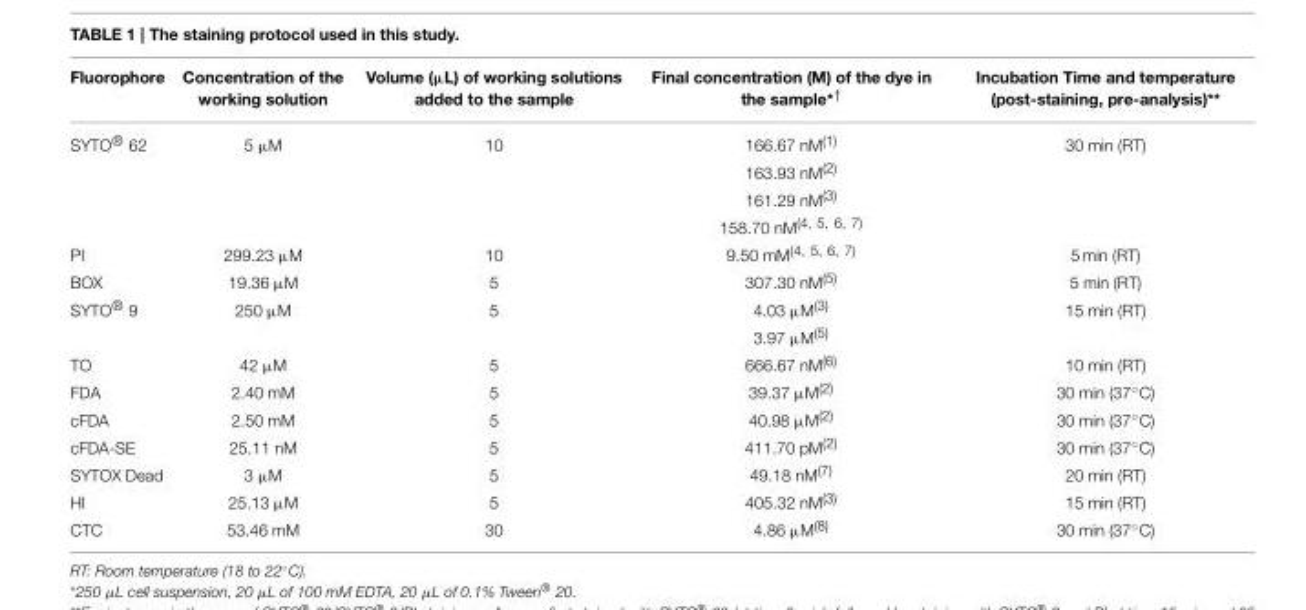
<table><thead><tr><td>Fluorophore</td><td>Concentration of the working solution</td><td>Volume (µL) of working solutions added to the sample</td><td>Final concentration (M) of the dye in the sample<sup>*†</sup></td><td>Incubation Time and temperature (post-staining, pre-analysis)**</td></tr></thead><tbody><tr><td rowspan="4">SYTO<sup>®</sup> 62</td><td>5 µM</td><td>10</td><td>166.67 nM(1)</td><td>30 min (RT)</td></tr><tr><td></td><td></td><td>163.93 nM(2)</td><td></td></tr><tr><td></td><td></td><td>161.29 nM(3)</td><td></td></tr><tr><td></td><td></td><td>158.70 nM(4, 5, 6, 7)</td><td></td></tr><tr><td>PI</td><td>299.23 µM</td><td>10</td><td>9.50 mM(4, 5, 6, 7)</td><td>5 min (RT)</td></tr><tr><td>BOX</td><td>19.36 µM</td><td>5</td><td>307.30 nM(5)</td><td>5 min (RT)</td></tr><tr><td rowspan="2">SYTO<sup>®</sup> 9</td><td>250 µM</td><td>5</td><td>4.03 µM(3)</td><td>15 min (RT)</td></tr><tr><td></td><td></td><td>3.97 µM(5)</td><td></td></tr><tr><td>TO</td><td>42 µM</td><td>5</td><td>666.67 nM(6)</td><td>10 min (RT)</td></tr><tr><td>FDA</td><td>2.40 mM</td><td>5</td><td>39.37 µM(2)</td><td>30 min (37◦C)</td></tr><tr><td>cFDA</td><td>2.50 mM</td><td>5</td><td>40.98 µM(2)</td><td>30 min (37◦C)</td></tr><tr><td>cFDA-SE</td><td>25.11 nM</td><td>5</td><td>411.70 pM(2)</td><td>30 min (37◦C)</td></tr><tr><td>SYTOX Dead</td><td>3 µM</td><td>5</td><td>49.18 nM(7)</td><td>20 min (RT)</td></tr><tr><td>HI</td><td>25.13 µM</td><td>5</td><td>405.32 nM(3)</td><td>15 min (RT)</td></tr><tr><td>CTC</td><td>53.46 mM</td><td>30</td><td>4.86 µM(8)</td><td>30 min (37◦C)</td></tr></tbody></table>